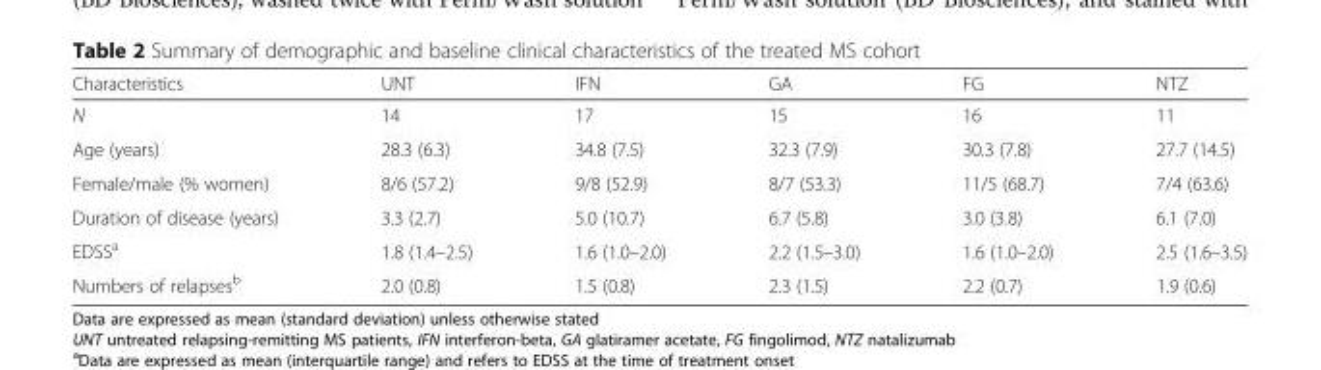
<table><thead><tr><td>Characteristics</td><td>UNT</td><td>IFN</td><td>GA</td><td>FG</td><td>NTZ</td></tr></thead><tbody><tr><td>N</td><td>14</td><td>17</td><td>15</td><td>16</td><td>11</td></tr><tr><td>Age (years)</td><td>28.3 (6.3)</td><td>34.8 (7.5)</td><td>32.3 (7.9)</td><td>30.3 (7.8)</td><td>27.7 (14.5)</td></tr><tr><td>Female/male (% women)</td><td>8/6 (57.2)</td><td>9/8 (52.9)</td><td>8/7 (53.3)</td><td>11/5 (68.7)</td><td>7/4 (63.6)</td></tr><tr><td>Duration of disease (years)</td><td>3.3 (2.7)</td><td>5.0 (10.7)</td><td>6.7 (5.8)</td><td>3.0 (3.8)</td><td>6.1 (7.0)</td></tr><tr><td>EDSS<sup>a</sup></td><td>1.8 (1.4–2.5)</td><td>1.6 (1.0–2.0)</td><td>2.2 (1.5–3.0)</td><td>1.6 (1.0–2.0)</td><td>2.5 (1.6–3.5)</td></tr><tr><td>Numbers of relapses<sup>b</sup></td><td>2.0 (0.8)</td><td>1.5 (0.8)</td><td>2.3 (1.5)</td><td>2.2 (0.7)</td><td>1.9 (0.6)</td></tr></tbody></table>